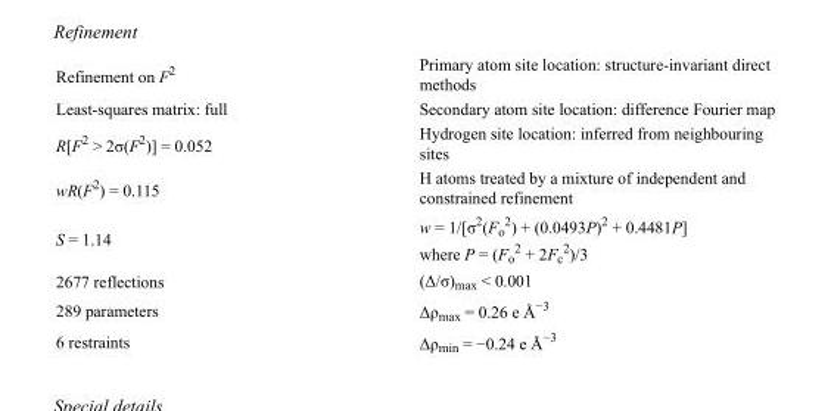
<table><tbody><tr><td>Refinement on F<sup>2</sup></td><td>Primary atom site location: structure-invariant direct methods</td></tr><tr><td>Least-squares matrix: full</td><td>Secondary atom site location: difference Fourier map</td></tr><tr><td>R[F<sup>2</sup> &gt; 2σ(F<sup>2</sup>)] = 0.052</td><td>Hydrogen site location: inferred from neighbouring sites</td></tr><tr><td>wR(F<sup>2</sup>) = 0.115</td><td>H atoms treated by a mixture of independent and constrained refinement</td></tr><tr><td>S = 1.14</td><td>w = 1/[σ<sup>2</sup>(F<sub>o</sub> <sup>2</sup>) + (0.0493P)<sup>2</sup> + 0.4481P] where P = (F<sub>o</sub> <sup>2</sup> + 2F<sub>c</sub> <sup>2</sup>)/3</td></tr><tr><td>2677 reflections</td><td>(Δ/σ)<sub>max</sub> &lt; 0.001</td></tr><tr><td>289 parameters</td><td>Δρ<sub>max</sub> = 0.26 e Å<sup>−3</sup></td></tr><tr><td>6 restraints</td><td>Δρ<sub>min</sub> = −0.24 e Å<sup>−3</sup></td></tr></tbody></table>